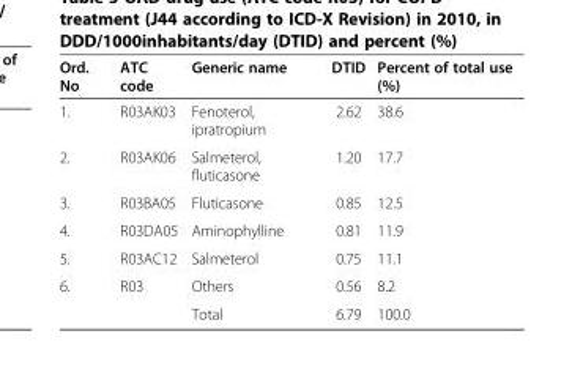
<table><thead><tr><td>Ord. No</td><td>ATC code</td><td>Generic name</td><td>DTID</td><td>Percent of total use (%)</td></tr></thead><tbody><tr><td>1.</td><td>R03AK03</td><td>Fenoterol, ipratropium</td><td>2.62</td><td>38.6</td></tr><tr><td>2.</td><td>R03AK06</td><td>Salmeterol, fluticasone</td><td>1.20</td><td>17.7</td></tr><tr><td>3.</td><td>R03BA05</td><td>Fluticasone</td><td>0.85</td><td>12.5</td></tr><tr><td>4.</td><td>R03DA05</td><td>Aminophylline</td><td>0.81</td><td>11.9</td></tr><tr><td>5.</td><td>R03AC12</td><td>Salmeterol</td><td>0.75</td><td>11.1</td></tr><tr><td rowspan="2">6.</td><td>R03</td><td>Others</td><td>0.56</td><td>8.2</td></tr><tr><td></td><td>Total</td><td>6.79</td><td>100.0</td></tr></tbody></table>